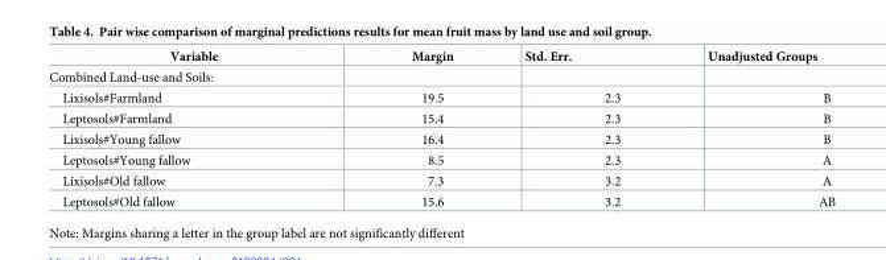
<table><thead><tr><td>Variable</td><td>Margin</td><td>Std. Err.</td><td>Unadjusted Groups</td></tr></thead><tbody><tr><td colspan="4">Combined Land-use and Soils:</td></tr><tr><td>Lixisols#Farmland</td><td>19.5</td><td>2.3</td><td>B</td></tr><tr><td>Leptosols#Farmland</td><td>15.4</td><td>2.3</td><td>B</td></tr><tr><td>Lixisols#Young fallow</td><td>16.4</td><td>2.3</td><td>B</td></tr><tr><td>Leptosols#Young fallow</td><td>8.5</td><td>2.3</td><td>A</td></tr><tr><td>Lixisols#Old fallow</td><td>7.3</td><td>3.2</td><td>A</td></tr><tr><td>Leptosols#Old fallow</td><td>15.6</td><td>3.2</td><td>AB</td></tr></tbody></table>